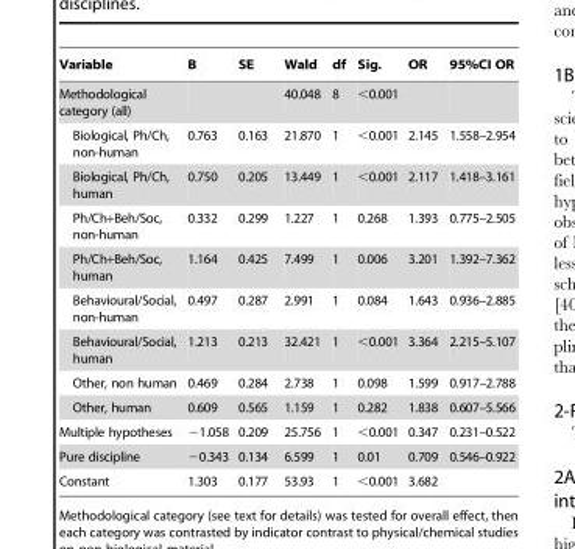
<table><thead><tr><td>Variable</td><td>B</td><td>SE</td><td>Wald</td><td>df</td><td>Sig.</td><td>OR</td><td>95%CI OR</td></tr></thead><tbody><tr><td>Methodological category (all)</td><td></td><td></td><td>40.048</td><td>8</td><td>&lt;0.001</td><td></td><td></td></tr><tr><td>Biological, Ph/Ch, non-human</td><td>0.763</td><td>0.163</td><td>21.870</td><td>1</td><td>&lt;0.001</td><td>2.145</td><td>1.558–2.954</td></tr><tr><td>Biological, Ph/Ch, human</td><td>0.750</td><td>0.205</td><td>13.449</td><td>1</td><td>&lt;0.001</td><td>2.117</td><td>1.418–3.161</td></tr><tr><td>Ph/Ch+Beh/Soc, non-human</td><td>0.332</td><td>0.299</td><td>1.227</td><td>1</td><td>0.268</td><td>1.393</td><td>0.775–2.505</td></tr><tr><td>Ph/Ch+Beh/Soc, human</td><td>1.164</td><td>0.425</td><td>7.499</td><td>1</td><td>0.006</td><td>3.201</td><td>1.392–7.362</td></tr><tr><td>Behavioural/Social, non-human</td><td>0.497</td><td>0.287</td><td>2.991</td><td>1</td><td>0.084</td><td>1.643</td><td>0.936–2.885</td></tr><tr><td>Behavioural/Social, human</td><td>1.213</td><td>0.213</td><td>32.421</td><td>1</td><td>&lt;0.001</td><td>3.364</td><td>2.215–5.107</td></tr><tr><td>Other, non human</td><td>0.469</td><td>0.284</td><td>2.738</td><td>1</td><td>0.098</td><td>1.599</td><td>0.917–2.788</td></tr><tr><td>Other, human</td><td>0.609</td><td>0.565</td><td>1.159</td><td>1</td><td>0.282</td><td>1.838</td><td>0.607–5.566</td></tr><tr><td>Multiple hypotheses</td><td>−1.058</td><td>0.209</td><td>25.756</td><td>1</td><td>&lt;0.001</td><td>0.347</td><td>0.231–0.522</td></tr><tr><td>Pure discipline</td><td>−0.343</td><td>0.134</td><td>6.599</td><td>1</td><td>0.01</td><td>0.709</td><td>0.546–0.922</td></tr><tr><td>Constant</td><td>1.303</td><td>0.177</td><td>53.93</td><td>1</td><td>&lt;0.001</td><td>3.682</td><td></td></tr></tbody></table>